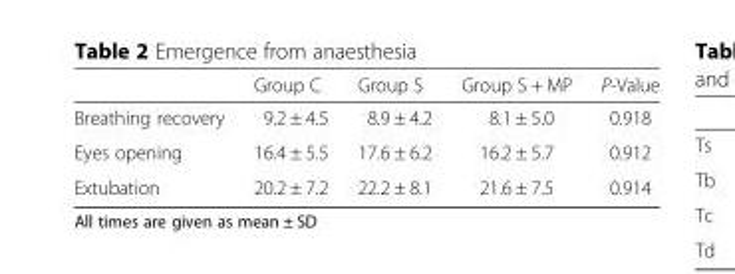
<table><thead><tr><td></td><td>Group C</td><td>Group S</td><td>Group S + MP</td><td>P-Value</td></tr></thead><tbody><tr><td>Breathing recovery</td><td>9.2 ± 4.5</td><td>8.9 ± 4.2</td><td>8.1 ± 5.0</td><td>0.918</td></tr><tr><td>Eyes opening</td><td>16.4 ± 5.5</td><td>17.6 ± 6.2</td><td>16.2 ± 5.7</td><td>0.912</td></tr><tr><td>Extubation</td><td>20.2 ± 7.2</td><td>22.2 ± 8.1</td><td>21.6 ± 7.5</td><td>0.914</td></tr></tbody></table>